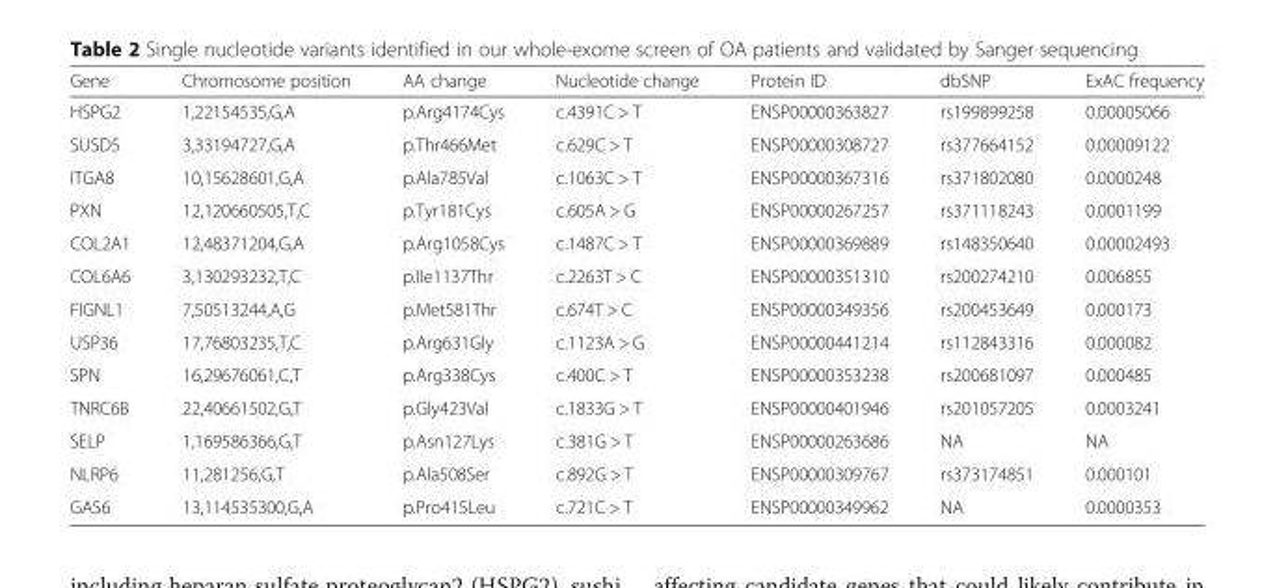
<table><thead><tr><td>Gene</td><td>Chromosome position</td><td>AA change</td><td>Nucleotide change</td><td>Protein ID</td><td>dbSNP</td><td>ExAC frequency</td></tr></thead><tbody><tr><td>HSPG2</td><td>1,22154535,G,A</td><td>p.Arg4174Cys</td><td>c.4391C &gt; T</td><td>ENSP00000363827</td><td>rs199899258</td><td>0.00005066</td></tr><tr><td>SUSD5</td><td>3,33194727,G,A</td><td>p.Thr466Met</td><td>c.629C &gt; T</td><td>ENSP00000308727</td><td>rs377664152</td><td>0.00009122</td></tr><tr><td>ITGA8</td><td>10,15628601,G,A</td><td>p.Ala785Val</td><td>c.1063C &gt; T</td><td>ENSP00000367316</td><td>rs371802080</td><td>0.0000248</td></tr><tr><td>PXN</td><td>12,120660505,T,C</td><td>p.Tyr181Cys</td><td>c.605A &gt; G</td><td>ENSP00000267257</td><td>rs371118243</td><td>0.0001199</td></tr><tr><td>COL2A1</td><td>12,48371204,G,A</td><td>p.Arg1058Cys</td><td>c.1487C &gt; T</td><td>ENSP00000369889</td><td>rs148350640</td><td>0.00002493</td></tr><tr><td>COL6A6</td><td>3,130293232,T,C</td><td>p.Ile1137Thr</td><td>c.2263T &gt; C</td><td>ENSP00000351310</td><td>rs200274210</td><td>0.006855</td></tr><tr><td>FIGNL1</td><td>7,50513244,A,G</td><td>p.Met581Thr</td><td>c.674T &gt; C</td><td>ENSP00000349356</td><td>rs200453649</td><td>0.000173</td></tr><tr><td>USP36</td><td>17,76803235,T,C</td><td>p.Arg631Gly</td><td>c.1123A &gt; G</td><td>ENSP00000441214</td><td>rs112843316</td><td>0.000082</td></tr><tr><td>SPN</td><td>16,29676061,C,T</td><td>p.Arg338Cys</td><td>c.400C &gt; T</td><td>ENSP00000353238</td><td>rs200681097</td><td>0.000485</td></tr><tr><td>TNRC6B</td><td>22,40661502,G,T</td><td>p.Gly423Val</td><td>c.1833G &gt; T</td><td>ENSP00000401946</td><td>rs201057205</td><td>0.0003241</td></tr><tr><td>SELP</td><td>1,169586366,G,T</td><td>p.Asn127Lys</td><td>c.381G &gt; T</td><td>ENSP00000263686</td><td>NA</td><td>NA</td></tr><tr><td>NLRP6</td><td>11,281256,G,T</td><td>p.Ala508Ser</td><td>c.892G &gt; T</td><td>ENSP00000309767</td><td>rs373174851</td><td>0.000101</td></tr><tr><td>GAS6</td><td>13,114535300,G,A</td><td>p.Pro415Leu</td><td>c.721C &gt; T</td><td>ENSP00000349962</td><td>NA</td><td>0.0000353</td></tr></tbody></table>